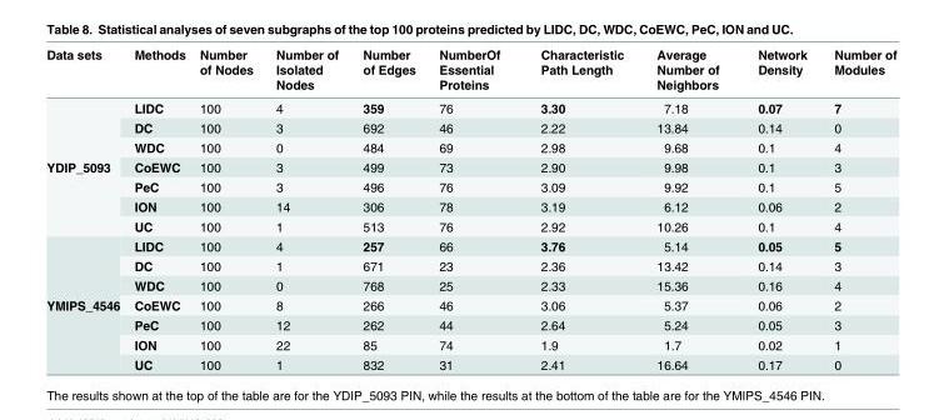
<table><thead><tr><td>Data sets</td><td>Methods</td><td>Number of Nodes</td><td>Number of Isolated Nodes</td><td>Number of Edges</td><td>NumberOf Essential Proteins</td><td>Characteristic Path Length</td><td>Average Number of Neighbors</td><td>Network Density</td><td>Number of Modules</td></tr></thead><tbody><tr><td rowspan="7">YDIP_5093</td><td>LIDC</td><td>100</td><td>4</td><td>359</td><td>76</td><td>3.30</td><td>7.18</td><td>0.07</td><td>7</td></tr><tr><td>DC</td><td>100</td><td>3</td><td>692</td><td>46</td><td>2.22</td><td>13.84</td><td>0.14</td><td>0</td></tr><tr><td>WDC</td><td>100</td><td>0</td><td>484</td><td>69</td><td>2.98</td><td>9.68</td><td>0.1</td><td>4</td></tr><tr><td>CoEWC</td><td>100</td><td>3</td><td>499</td><td>73</td><td>2.90</td><td>9.98</td><td>0.1</td><td>3</td></tr><tr><td>PeC</td><td>100</td><td>3</td><td>496</td><td>76</td><td>3.09</td><td>9.92</td><td>0.1</td><td>5</td></tr><tr><td>ION</td><td>100</td><td>14</td><td>306</td><td>78</td><td>3.19</td><td>6.12</td><td>0.06</td><td>2</td></tr><tr><td>UC</td><td>100</td><td>1</td><td>513</td><td>76</td><td>2.92</td><td>10.26</td><td>0.1</td><td>4</td></tr><tr><td rowspan="7">YMIPS_4546</td><td>LIDC</td><td>100</td><td>4</td><td>257</td><td>66</td><td>3.76</td><td>5.14</td><td>0.05</td><td>5</td></tr><tr><td>DC</td><td>100</td><td>1</td><td>671</td><td>23</td><td>2.36</td><td>13.42</td><td>0.14</td><td>3</td></tr><tr><td>WDC</td><td>100</td><td>0</td><td>768</td><td>25</td><td>2.33</td><td>15.36</td><td>0.16</td><td>4</td></tr><tr><td>CoEWC</td><td>100</td><td>8</td><td>266</td><td>46</td><td>3.06</td><td>5.37</td><td>0.06</td><td>2</td></tr><tr><td>PeC</td><td>100</td><td>12</td><td>262</td><td>44</td><td>2.64</td><td>5.24</td><td>0.05</td><td>3</td></tr><tr><td>ION</td><td>100</td><td>22</td><td>85</td><td>74</td><td>1.9</td><td>1.7</td><td>0.02</td><td>1</td></tr><tr><td>UC</td><td>100</td><td>1</td><td>832</td><td>31</td><td>2.41</td><td>16.64</td><td>0.17</td><td>0</td></tr></tbody></table>